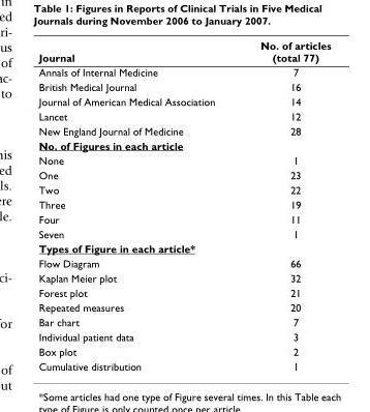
<table><tbody><tr><td>Journal</td><td>No. of articles (total 77)</td></tr><tr><td>Annals of Internal Medicine</td><td>7</td></tr><tr><td>British Medical Journal</td><td>16</td></tr><tr><td>Journal of American Medical Association</td><td>14</td></tr><tr><td>Lancet</td><td>12</td></tr><tr><td>New England Journal of Medicine</td><td>28</td></tr><tr><td colspan="2">No. of Figures in each article</td></tr><tr><td>None</td><td>1</td></tr><tr><td>One</td><td>23</td></tr><tr><td>Two</td><td>22</td></tr><tr><td>Three</td><td>19</td></tr><tr><td>Four</td><td>11</td></tr><tr><td>Seven</td><td>1</td></tr><tr><td colspan="2">Types of Figure in each article*</td></tr><tr><td>Flow Diagram</td><td>66</td></tr><tr><td>Kaplan Meier plot</td><td>32</td></tr><tr><td>Forest plot</td><td>21</td></tr><tr><td>Repeated measures</td><td>20</td></tr><tr><td>Bar chart</td><td>7</td></tr><tr><td>Individual patient data</td><td>3</td></tr><tr><td>Box plot</td><td>2</td></tr><tr><td>Cumulative distribution</td><td>1</td></tr></tbody></table>